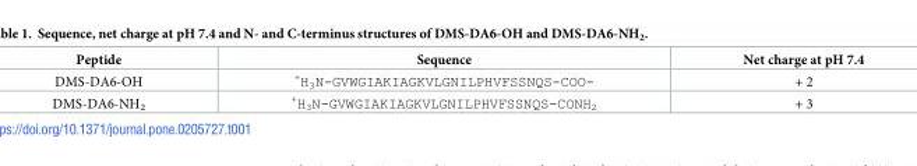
<table><thead><tr><td>Peptide</td><td>Sequence</td><td>Net charge at pH 7.4</td></tr></thead><tbody><tr><td>DMS-DA6-OH</td><td><sup>+</sup>H<sub>3</sub>N-GVWGIAKIAGKVLGNILPHVFSSNQS-COO-</td><td>+ 2</td></tr><tr><td>DMS-DA6-NH<sub>2</sub></td><td><sup>+</sup>H<sub>3</sub>N-GVWGIAKIAGKVLGNILPHVFSSNQS-CONH<sub>2</sub></td><td>+ 3</td></tr></tbody></table>